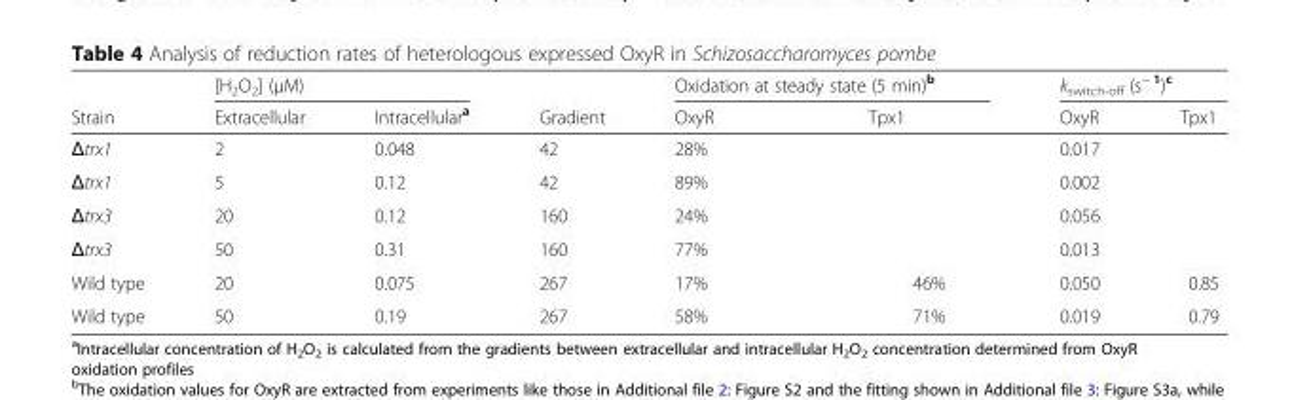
<table><thead><tr><td rowspan="2">Strain</td><td colspan="2">[H<sub>2</sub>O<sub>2</sub>] (μM)</td><td rowspan="2">Gradient</td><td colspan="2">Oxidation at steady state (5 min)<sup>b</sup></td><td colspan="2">k<sub>switch-off</sub> (s<sup>− 1</sup>)<sup>c</sup></td></tr><tr><td>Extracellular</td><td>Intracellular<sup>a</sup></td><td>OxyR</td><td>Tpx1</td><td>OxyR</td><td>Tpx1</td></tr></thead><tbody><tr><td>Δtrx1</td><td>2</td><td>0.048</td><td>42</td><td>28%</td><td></td><td>0.017</td><td rowspan="4"></td></tr><tr><td>Δtrx1</td><td>5</td><td>0.12</td><td>42</td><td>89%</td><td></td><td>0.002</td></tr><tr><td>Δtrx3</td><td>20</td><td>0.12</td><td>160</td><td>24%</td><td></td><td>0.056</td></tr><tr><td>Δtrx3</td><td>50</td><td>0.31</td><td>160</td><td>77%</td><td></td><td>0.013</td></tr><tr><td>Wild type</td><td>20</td><td>0.075</td><td>267</td><td>17%</td><td>46%</td><td>0.050</td><td>0.85</td></tr><tr><td>Wild type</td><td>50</td><td>0.19</td><td>267</td><td>58%</td><td>71%</td><td>0.019</td><td>0.79</td></tr></tbody></table>